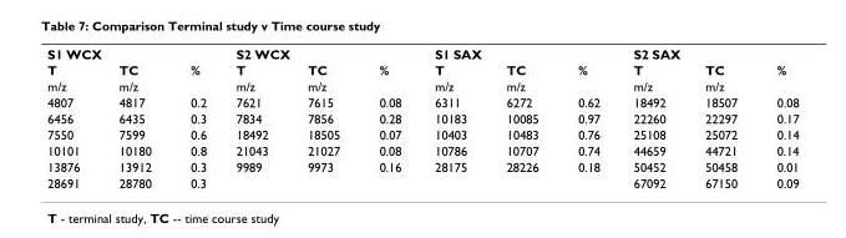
<table><tbody><tr><td colspan="3">S1 WCX</td><td colspan="3">S2 WCX</td><td colspan="3">S1 SAX</td><td colspan="3">S2 SAX</td></tr><tr><td>T</td><td>TC</td><td>%</td><td>T</td><td>TC</td><td>%</td><td>T</td><td>TC</td><td>%</td><td>T</td><td>TC</td><td>%</td></tr><tr><td>m/z</td><td>m/z</td><td></td><td>m/z</td><td>m/z</td><td></td><td>m/z</td><td>m/z</td><td></td><td>m/z</td><td>m/z</td><td></td></tr><tr><td>4807</td><td>4817</td><td>0.2</td><td>7621</td><td>7615</td><td>0.08</td><td>6311</td><td>6272</td><td>0.62</td><td>18492</td><td>18507</td><td>0.08</td></tr><tr><td>6456</td><td>6435</td><td>0.3</td><td>7834</td><td>7856</td><td>0.28</td><td>10183</td><td>10085</td><td>0.97</td><td>22260</td><td>22297</td><td>0.17</td></tr><tr><td>7550</td><td>7599</td><td>0.6</td><td>18492</td><td>18505</td><td>0.07</td><td>10403</td><td>10483</td><td>0.76</td><td>25108</td><td>25072</td><td>0.14</td></tr><tr><td>10101</td><td>10180</td><td>0.8</td><td>21043</td><td>21027</td><td>0.08</td><td>10786</td><td>10707</td><td>0.74</td><td>44659</td><td>44721</td><td>0.14</td></tr><tr><td>13876</td><td>13912</td><td>0.3</td><td>9989</td><td>9973</td><td>0.16</td><td>28175</td><td>28226</td><td>0.18</td><td>50452</td><td>50458</td><td>0.01</td></tr><tr><td>28691</td><td>28780</td><td>0.3</td><td></td><td></td><td></td><td></td><td></td><td></td><td>67092</td><td>67150</td><td>0.09</td></tr></tbody></table>